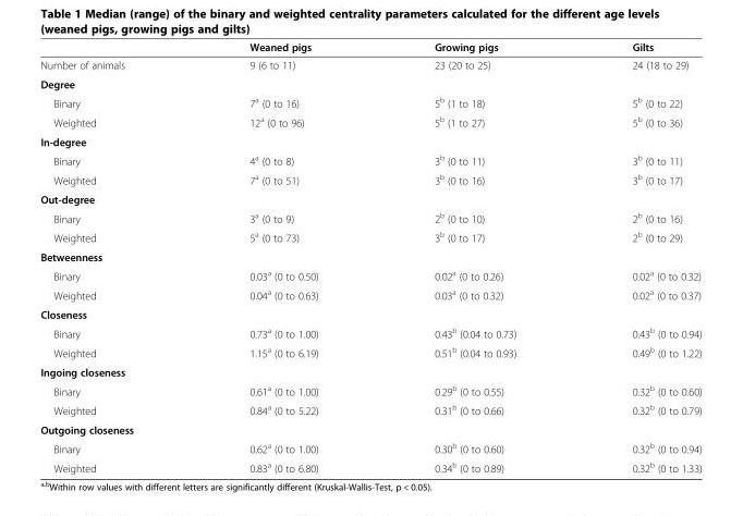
<table><thead><tr><td></td><td>Weaned pigs</td><td>Growing pigs</td><td>Gilts</td></tr></thead><tbody><tr><td>Number of animals</td><td>9 (6 to 11)</td><td>23 (20 to 25)</td><td>24 (18 to 29)</td></tr><tr><td colspan="4">Degree</td></tr><tr><td>Binary</td><td>7<sup>a</sup> (0 to 16)</td><td>5<sup>b</sup> (1 to 18)</td><td>5<sup>b</sup> (0 to 22)</td></tr><tr><td>Weighted</td><td>12<sup>a</sup> (0 to 96)</td><td>5<sup>b</sup> (1 to 27)</td><td>5<sup>b</sup> (0 to 36)</td></tr><tr><td colspan="4">In-degree</td></tr><tr><td>Binary</td><td>4<sup>a</sup> (0 to 8)</td><td>3<sup>b</sup> (0 to 11)</td><td>3<sup>b</sup> (0 to 11)</td></tr><tr><td>Weighted</td><td>7<sup>a</sup> (0 to 51)</td><td>3<sup>b</sup> (0 to 16)</td><td>3<sup>b</sup> (0 to 17)</td></tr><tr><td colspan="4">Out-degree</td></tr><tr><td>Binary</td><td>3<sup>a</sup> (0 to 9)</td><td>2<sup>b</sup> (0 to 10)</td><td>2<sup>b</sup> (0 to 16)</td></tr><tr><td>Weighted</td><td>5<sup>a</sup> (0 to 73)</td><td>3<sup>b</sup> (0 to 17)</td><td>2<sup>b</sup> (0 to 29)</td></tr><tr><td colspan="4">Betweenness</td></tr><tr><td>Binary</td><td>0.03<sup>a</sup> (0 to 0.50)</td><td>0.02<sup>a</sup> (0 to 0.26)</td><td>0.02<sup>a</sup> (0 to 0.32)</td></tr><tr><td>Weighted</td><td>0.04<sup>a</sup> (0 to 0.63)</td><td>0.03<sup>a</sup> (0 to 0.32)</td><td>0.02<sup>a</sup> (0 to 0.37)</td></tr><tr><td colspan="4">Closeness</td></tr><tr><td>Binary</td><td>0.73<sup>a</sup> (0 to 1.00)</td><td>0.43<sup>b</sup> (0.04 to 0.73)</td><td>0.43<sup>b</sup> (0 to 0.94)</td></tr><tr><td>Weighted</td><td>1.15<sup>a</sup> (0 to 6.19)</td><td>0.51<sup>b</sup> (0.04 to 0.93)</td><td>0.49<sup>b</sup> (0 to 1.22)</td></tr><tr><td colspan="4">Ingoing closeness</td></tr><tr><td>Binary</td><td>0.61<sup>a</sup> (0 to 1.00)</td><td>0.29<sup>b</sup> (0 to 0.55)</td><td>0.32<sup>b</sup> (0 to 0.60)</td></tr><tr><td>Weighted</td><td>0.84<sup>a</sup> (0 to 5.22)</td><td>0.31<sup>b</sup> (0 to 0.66)</td><td>0.32<sup>b</sup> (0 to 0.79)</td></tr><tr><td colspan="4">Outgoing closeness</td></tr><tr><td>Binary</td><td>0.62<sup>a</sup> (0 to 1.00)</td><td>0.30<sup>b</sup> (0 to 0.60)</td><td>0.32<sup>b</sup> (0 to 0.94)</td></tr><tr><td>Weighted</td><td>0.83<sup>a</sup> (0 to 6.80)</td><td>0.34<sup>b</sup> (0 to 0.89)</td><td>0.32<sup>b</sup> (0 to 1.33)</td></tr></tbody></table>